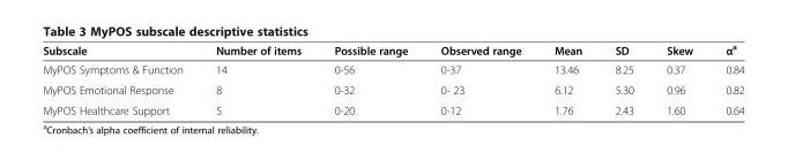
<table><thead><tr><td>Subscale</td><td>Number of items</td><td>Possible range</td><td>Observed range</td><td>Mean</td><td>SD</td><td>Skew</td><td>α<sup>a</sup></td></tr></thead><tbody><tr><td>MyPOS Symptoms &amp; Function</td><td>14</td><td>0-56</td><td>0-37</td><td>13.46</td><td>8.25</td><td>0.37</td><td>0.84</td></tr><tr><td>MyPOS Emotional Response</td><td>8</td><td>0-32</td><td>0- 23</td><td>6.12</td><td>5.30</td><td>0.96</td><td>0.82</td></tr><tr><td>MyPOS Healthcare Support</td><td>5</td><td>0-20</td><td>0-12</td><td>1.76</td><td>2.43</td><td>1.60</td><td>0.64</td></tr></tbody></table>